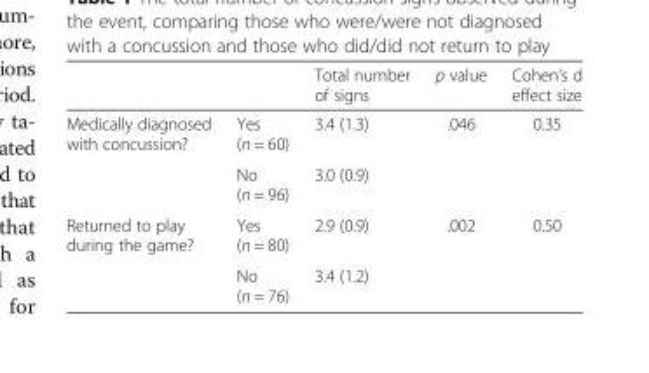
<table><thead><tr><td></td><td></td><td>Total number of signs</td><td>p value</td><td>Cohen’s d effect size</td></tr></thead><tbody><tr><td rowspan="2">Medically diagnosed with concussion?</td><td>Yes (n = 60)</td><td>3.4 (1.3)</td><td rowspan="2">.046</td><td rowspan="2">0.35</td></tr><tr><td>No (n = 96)</td><td>3.0 (0.9)</td></tr><tr><td rowspan="2">Returned to play during the game?</td><td>Yes (n = 80)</td><td>2.9 (0.9)</td><td rowspan="2">.002</td><td rowspan="2">0.50</td></tr><tr><td>No (n = 76)</td><td>3.4 (1.2)</td></tr></tbody></table>